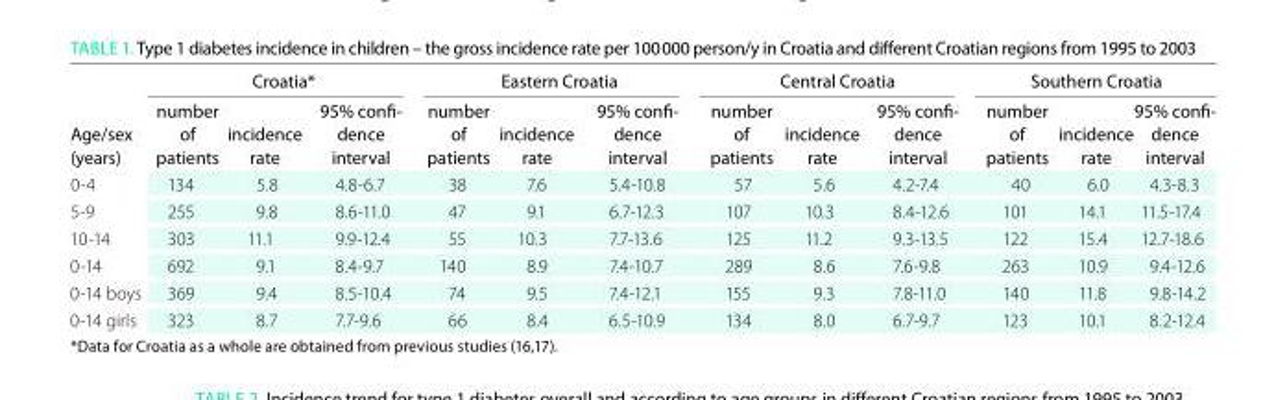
<table><thead><tr><td rowspan="2">Age/sex (years)</td><td colspan="3">Croatia*</td><td colspan="3">eastern Croatia</td><td colspan="3">Central Croatia</td><td colspan="3">Southern Croatia</td></tr><tr><td>number of patients</td><td>incidence rate</td><td>95% confi- dence interval</td><td>number of patients</td><td>incidence rate</td><td>95% confi- dence interval</td><td>number of patients</td><td>incidence rate</td><td>95% confi- dence interval</td><td>number of patients</td><td>incidence rate</td><td>95% confi- dence interval</td></tr></thead><tbody><tr><td>0-4</td><td>134</td><td>5.8</td><td>4.8-6.7</td><td>38</td><td>7.6</td><td>5.4-10.8</td><td>57</td><td>5.6</td><td>4.2-7.4</td><td>40</td><td>6.0</td><td>4.3-8.3</td></tr><tr><td>5-9</td><td>255</td><td>9.8</td><td>8.6-11.0</td><td>47</td><td>9.1</td><td>6.7-12.3</td><td>107</td><td>10.3</td><td>8.4-12.6</td><td>101</td><td>14.1</td><td>11.5-17.4</td></tr><tr><td>10-14</td><td>303</td><td>11.1</td><td>9.9-12.4</td><td>55</td><td>10.3</td><td>7.7-13.6</td><td>125</td><td>11.2</td><td>9.3-13.5</td><td>122</td><td>15.4</td><td>12.7-18.6</td></tr><tr><td>0-14</td><td>692</td><td>9.1</td><td>8.4-9.7</td><td>140</td><td>8.9</td><td>7.4-10.7</td><td>289</td><td>8.6</td><td>7.6-9.8</td><td>263</td><td>10.9</td><td>9.4-12.6</td></tr><tr><td>0-14 boys</td><td>369</td><td>9.4</td><td>8.5-10.4</td><td>74</td><td>9.5</td><td>7.4-12.1</td><td>155</td><td>9.3</td><td>7.8-11.0</td><td>140</td><td>11.8</td><td>9.8-14.2</td></tr><tr><td>0-14 girls</td><td>323</td><td>8.7</td><td>7.7-9.6</td><td>66</td><td>8.4</td><td>6.5-10.9</td><td>134</td><td>8.0</td><td>6.7-9.7</td><td>123</td><td>10.1</td><td>8.2-12.4</td></tr></tbody></table>